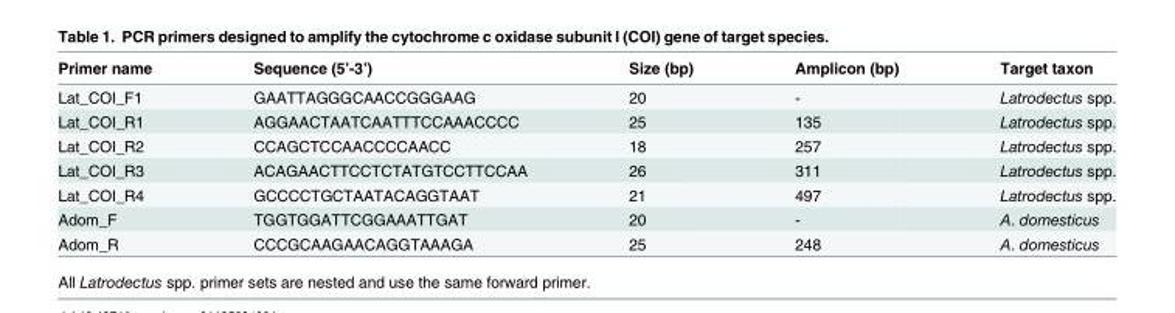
<table><thead><tr><td>Primer name</td><td>Sequence (5’-3’)</td><td>Size (bp)</td><td>Amplicon (bp)</td><td>Target taxon</td></tr></thead><tbody><tr><td>Lat_COI_F1</td><td>GAATTAGGGCAACCGGGAAG</td><td>20</td><td>-</td><td>Latrodectus spp.</td></tr><tr><td>Lat_COI_R1</td><td>AGGAACTAATCAATTTCCAAACCCC</td><td>25</td><td>135</td><td>Latrodectus spp.</td></tr><tr><td>Lat_COI_R2</td><td>CCAGCTCCAACCCCAACC</td><td>18</td><td>257</td><td>Latrodectus spp.</td></tr><tr><td>Lat_COI_R3</td><td>ACAGAACTTCCTCTATGTCCTTCCAA</td><td>26</td><td>311</td><td>Latrodectus spp.</td></tr><tr><td>Lat_COI_R4</td><td>GCCCCTGCTAATACAGGTAAT</td><td>21</td><td>497</td><td>Latrodectus spp.</td></tr><tr><td>Adom_F</td><td>TGGTGGATTCGGAAATTGAT</td><td>20</td><td>-</td><td>A. domesticus</td></tr><tr><td>Adom_R</td><td>CCCGCAAGAACAGGTAAAGA</td><td>25</td><td>248</td><td>A. domesticus</td></tr></tbody></table>